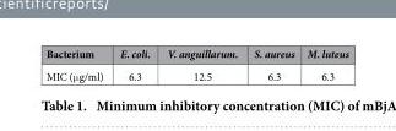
<table><thead><tr><td>Bacterium</td><td>E. coli.</td><td>V. anguillarum.</td><td>S. aureus</td><td>M. luteus</td></tr></thead><tbody><tr><td>MIC (μ g/ml)</td><td>6.3</td><td>12.5</td><td>6.3</td><td>6.3</td></tr></tbody></table>